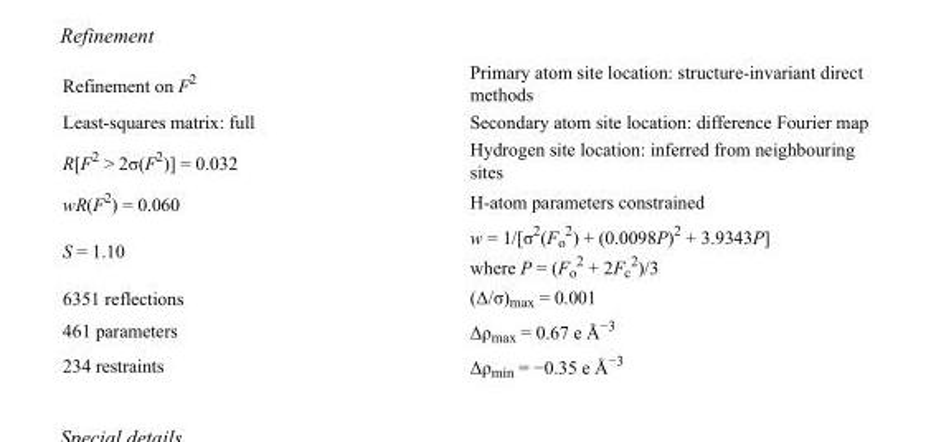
<table><tbody><tr><td>Refinement on F<sup>2</sup></td><td>Primary atom site location: structure-invariant direct methods</td></tr><tr><td>Least-squares matrix: full</td><td>Secondary atom site location: difference Fourier map</td></tr><tr><td>R[F<sup>2</sup> &gt; 2σ(F<sup>2</sup>)] = 0.032</td><td>Hydrogen site location: inferred from neighbouring sites</td></tr><tr><td>wR(F<sup>2</sup>) = 0.060</td><td>H-atom parameters constrained</td></tr><tr><td>S = 1.10</td><td>w = 1/[σ<sup>2</sup>(F<sub>o</sub> <sup>2</sup>) + (0.0098P)<sup>2</sup> + 3.9343P] where P = (F<sub>o</sub> <sup>2</sup> + 2F<sub>c</sub> <sup>2</sup>)/3</td></tr><tr><td>6351 reflections</td><td>(Δ/σ)<sub>max</sub> = 0.001</td></tr><tr><td>461 parameters</td><td>Δρ<sub>max</sub> = 0.67 e Å<sup>−3</sup></td></tr><tr><td>234 restraints</td><td>Δρ<sub>min</sub> = −0.35 e Å<sup>−3</sup></td></tr></tbody></table>